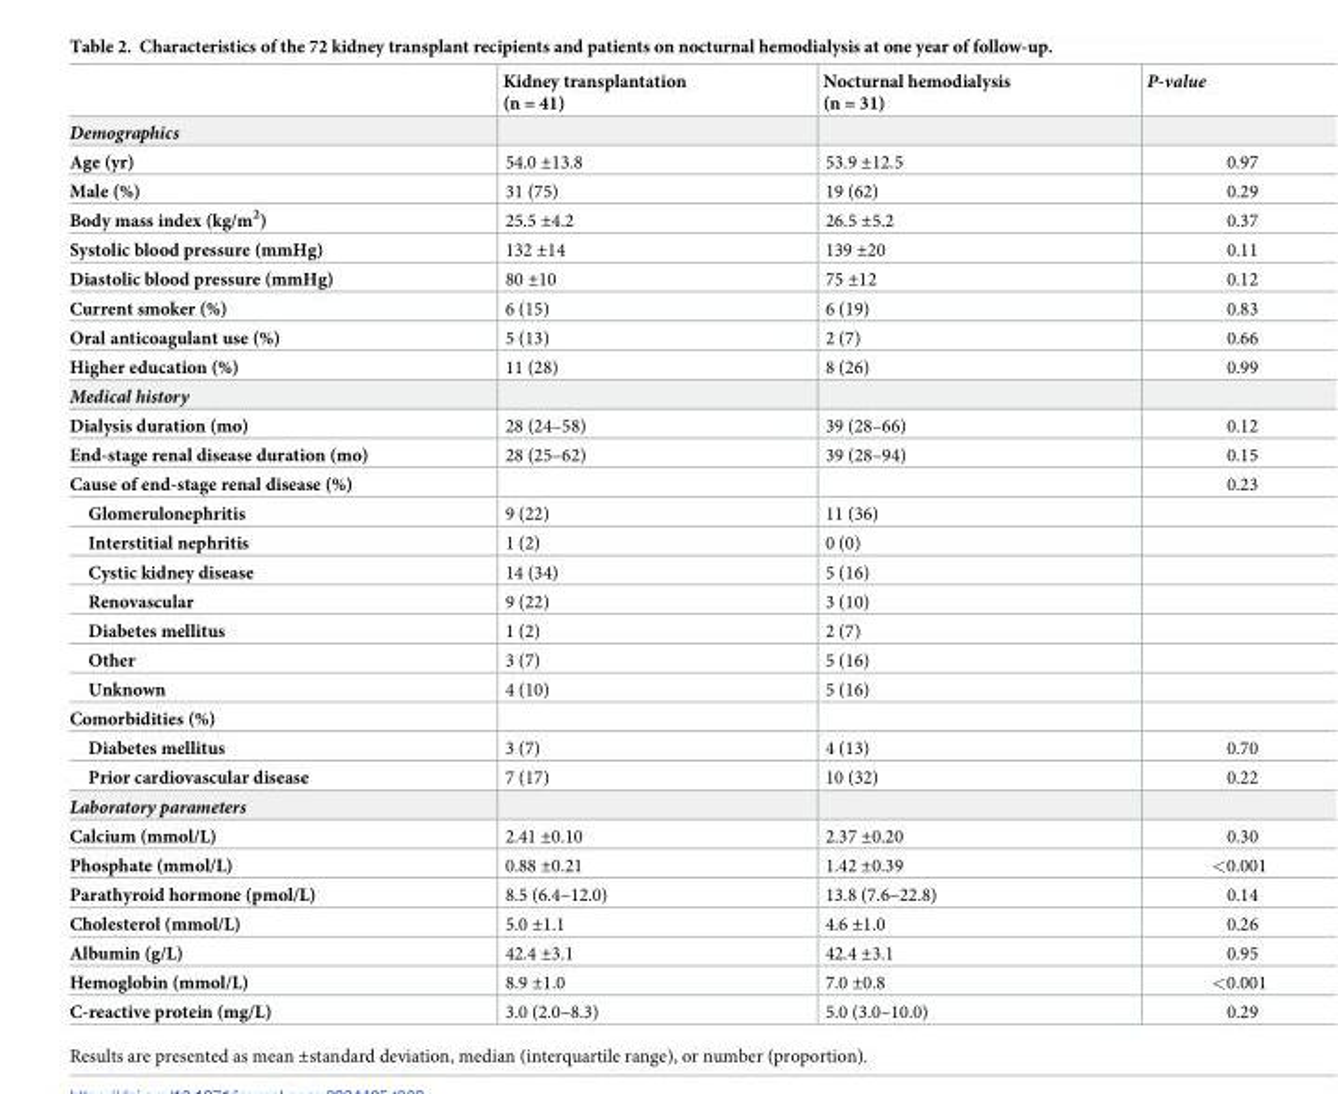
<table><thead><tr><td></td><td>Kidney transplantation (n = 41)</td><td>Nocturnal hemodialysis (n = 31)</td><td>P-value</td></tr></thead><tbody><tr><td colspan="4">Demographics</td></tr><tr><td>Age (yr)</td><td>54.0 ±13.8</td><td>53.9 ±12.5</td><td>0.97</td></tr><tr><td>Male (%)</td><td>31 (75)</td><td>19 (62)</td><td>0.29</td></tr><tr><td>Body mass index (kg/m<sup>2</sup>)</td><td>25.5 ±4.2</td><td>26.5 ±5.2</td><td>0.37</td></tr><tr><td>Systolic blood pressure (mmHg)</td><td>132 ±14</td><td>139 ±20</td><td>0.11</td></tr><tr><td>Diastolic blood pressure (mmHg)</td><td>80 ±10</td><td>75 ±12</td><td>0.12</td></tr><tr><td>Current smoker (%)</td><td>6 (15)</td><td>6 (19)</td><td>0.83</td></tr><tr><td>Oral anticoagulant use (%)</td><td>5 (13)</td><td>2 (7)</td><td>0.66</td></tr><tr><td>Higher education (%)</td><td>11 (28)</td><td>8 (26)</td><td>0.99</td></tr><tr><td colspan="4">Medical history</td></tr><tr><td>Dialysis duration (mo)</td><td>28 (24–58)</td><td>39 (28–66)</td><td>0.12</td></tr><tr><td>End-stage renal disease duration (mo)</td><td>28 (25–62)</td><td>39 (28–94)</td><td>0.15</td></tr><tr><td>Cause of end-stage renal disease (%)</td><td></td><td></td><td>0.23</td></tr><tr><td>Glomerulonephritis</td><td>9 (22)</td><td>11 (36)</td><td></td></tr><tr><td>Interstitial nephritis</td><td>1 (2)</td><td>0 (0)</td><td></td></tr><tr><td>Cystic kidney disease</td><td>14 (34)</td><td>5 (16)</td><td></td></tr><tr><td>Renovascular</td><td>9 (22)</td><td>3 (10)</td><td></td></tr><tr><td>Diabetes mellitus</td><td>1 (2)</td><td>2 (7)</td><td></td></tr><tr><td>Other</td><td>3 (7)</td><td>5 (16)</td><td></td></tr><tr><td>Unknown</td><td>4 (10)</td><td>5 (16)</td><td></td></tr><tr><td colspan="4">Comorbidities (%)</td></tr><tr><td>Diabetes mellitus</td><td>3 (7)</td><td>4 (13)</td><td>0.70</td></tr><tr><td>Prior cardiovascular disease</td><td>7 (17)</td><td>10 (32)</td><td>0.22</td></tr><tr><td colspan="4">Laboratory parameters</td></tr><tr><td>Calcium (mmol/L)</td><td>2.41 ±0.10</td><td>2.37 ±0.20</td><td>0.30</td></tr><tr><td>Phosphate (mmol/L)</td><td>0.88 ±0.21</td><td>1.42 ±0.39</td><td>&lt;0.001</td></tr><tr><td>Parathyroid hormone (pmol/L)</td><td>8.5 (6.4–12.0)</td><td>13.8 (7.6–22.8)</td><td>0.14</td></tr><tr><td>Cholesterol (mmol/L)</td><td>5.0 ±1.1</td><td>4.6 ±1.0</td><td>0.26</td></tr><tr><td>Albumin (g/L)</td><td>42.4 ±3.1</td><td>42.4 ±3.1</td><td>0.95</td></tr><tr><td>Hemoglobin (mmol/L)</td><td>8.9 ±1.0</td><td>7.0 ±0.8</td><td>&lt;0.001</td></tr><tr><td>C-reactive protein (mg/L)</td><td>3.0 (2.0–8.3)</td><td>5.0 (3.0–10.0)</td><td>0.29</td></tr></tbody></table>